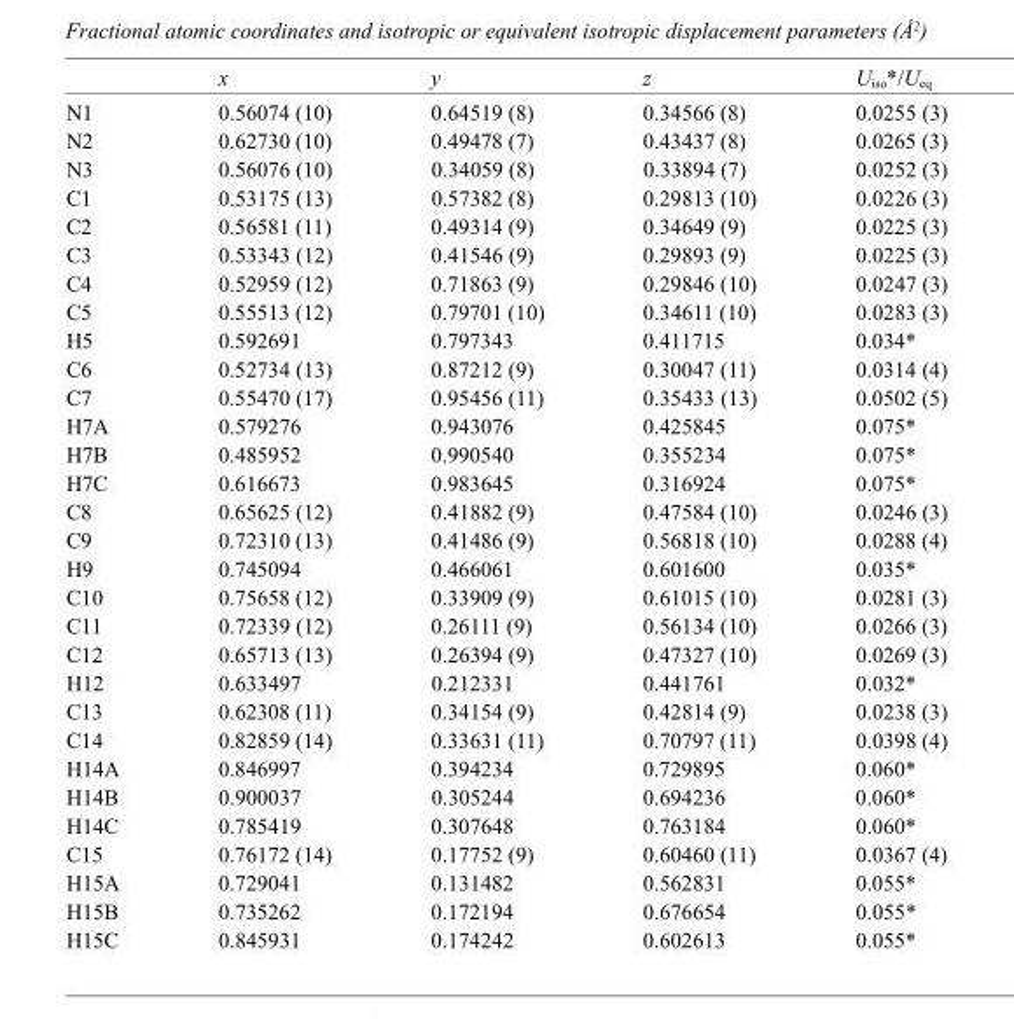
<table><thead><tr><td></td><td>x</td><td>y</td><td>z</td><td>U<sub>iso</sub>*/U<sub>eq</sub></td></tr></thead><tbody><tr><td>N1</td><td>0.56074 (10)</td><td>0.64519 (8)</td><td>0.34566 (8)</td><td>0.0255 (3)</td></tr><tr><td>N2</td><td>0.62730 (10)</td><td>0.49478 (7)</td><td>0.43437 (8)</td><td>0.0265 (3)</td></tr><tr><td>N3</td><td>0.56076 (10)</td><td>0.34059 (8)</td><td>0.33894 (7)</td><td>0.0252 (3)</td></tr><tr><td>C1</td><td>0.53175 (13)</td><td>0.57382 (8)</td><td>0.29813 (10)</td><td>0.0226 (3)</td></tr><tr><td>C2</td><td>0.56581 (11)</td><td>0.49314 (9)</td><td>0.34649 (9)</td><td>0.0225 (3)</td></tr><tr><td>C3</td><td>0.53343 (12)</td><td>0.41546 (9)</td><td>0.29893 (9)</td><td>0.0225 (3)</td></tr><tr><td>C4</td><td>0.52959 (12)</td><td>0.71863 (9)</td><td>0.29846 (10)</td><td>0.0247 (3)</td></tr><tr><td>C5</td><td>0.55513 (12)</td><td>0.79701 (10)</td><td>0.34611 (10)</td><td>0.0283 (3)</td></tr><tr><td>H5</td><td>0.592691</td><td>0.797343</td><td>0.411715</td><td>0.034*</td></tr><tr><td>C6</td><td>0.52734 (13)</td><td>0.87212 (9)</td><td>0.30047 (11)</td><td>0.0314 (4)</td></tr><tr><td>C7</td><td>0.55470 (17)</td><td>0.95456 (11)</td><td>0.35433 (13)</td><td>0.0502 (5)</td></tr><tr><td>H7A</td><td>0.579276</td><td>0.943076</td><td>0.425845</td><td>0.075*</td></tr><tr><td>H7B</td><td>0.485952</td><td>0.990540</td><td>0.355234</td><td>0.075*</td></tr><tr><td>H7C</td><td>0.616673</td><td>0.983645</td><td>0.316924</td><td>0.075*</td></tr><tr><td>C8</td><td>0.65625 (12)</td><td>0.41882 (9)</td><td>0.47584 (10)</td><td>0.0246 (3)</td></tr><tr><td>C9</td><td>0.72310 (13)</td><td>0.41486 (9)</td><td>0.56818 (10)</td><td>0.0288 (4)</td></tr><tr><td>H9</td><td>0.745094</td><td>0.466061</td><td>0.601600</td><td>0.035*</td></tr><tr><td>C10</td><td>0.75658 (12)</td><td>0.33909 (9)</td><td>0.61015 (10)</td><td>0.0281 (3)</td></tr><tr><td>C11</td><td>0.72339 (12)</td><td>0.26111 (9)</td><td>0.56134 (10)</td><td>0.0266 (3)</td></tr><tr><td>C12</td><td>0.65713 (13)</td><td>0.26394 (9)</td><td>0.47327 (10)</td><td>0.0269 (3)</td></tr><tr><td>H12</td><td>0.633497</td><td>0.212331</td><td>0.441761</td><td>0.032*</td></tr><tr><td>C13</td><td>0.62308 (11)</td><td>0.34154 (9)</td><td>0.42814 (9)</td><td>0.0238 (3)</td></tr><tr><td>C14</td><td>0.82859 (14)</td><td>0.33631 (11)</td><td>0.70797 (11)</td><td>0.0398 (4)</td></tr><tr><td>H14A</td><td>0.846997</td><td>0.394234</td><td>0.729895</td><td>0.060*</td></tr><tr><td>H14B</td><td>0.900037</td><td>0.305244</td><td>0.694236</td><td>0.060*</td></tr><tr><td>H14C</td><td>0.785419</td><td>0.307648</td><td>0.763184</td><td>0.060*</td></tr><tr><td>C15</td><td>0.76172 (14)</td><td>0.17752 (9)</td><td>0.60460 (11)</td><td>0.0367 (4)</td></tr><tr><td>H15A</td><td>0.729041</td><td>0.131482</td><td>0.562831</td><td>0.055*</td></tr><tr><td>H15B</td><td>0.735262</td><td>0.172194</td><td>0.676654</td><td>0.055*</td></tr><tr><td>H15C</td><td>0.845931</td><td>0.174242</td><td>0.602613</td><td>0.055*</td></tr></tbody></table>